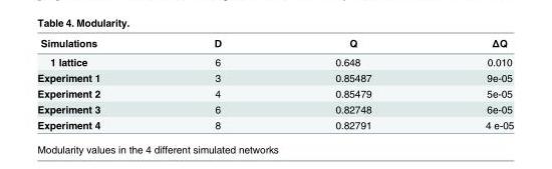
<table><thead><tr><td>Simulations</td><td>D</td><td>Q</td><td>ΔQ</td></tr></thead><tbody><tr><td>1 lattice</td><td>6</td><td>0.648</td><td>0.010</td></tr><tr><td>Experiment 1</td><td>3</td><td>0.85487</td><td>9e-05</td></tr><tr><td>Experiment 2</td><td>4</td><td>0.85479</td><td>5e-05</td></tr><tr><td>Experiment 3</td><td>6</td><td>0.82748</td><td>6e-05</td></tr><tr><td>Experiment 4</td><td>8</td><td>0.82791</td><td>4 e-05</td></tr></tbody></table>